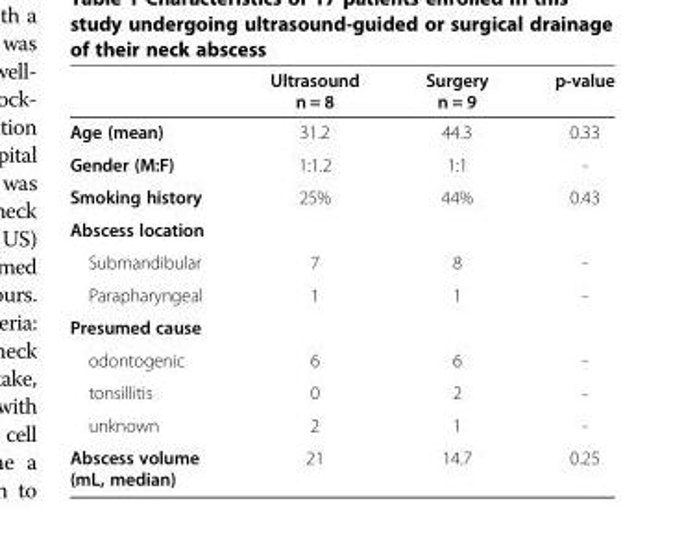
<table><thead><tr><td></td><td>Ultrasound n = 8</td><td>Surgery n = 9</td><td>p-value</td></tr></thead><tbody><tr><td>Age (mean)</td><td>31.2</td><td>44.3</td><td>0.33</td></tr><tr><td>Gender (M:F)</td><td>1:1.2</td><td>1:1</td><td>-</td></tr><tr><td>Smoking history</td><td>25%</td><td>44%</td><td>0.43</td></tr><tr><td colspan="4">Abscess location</td></tr><tr><td>Submandibular</td><td>7</td><td>8</td><td>-</td></tr><tr><td>Parapharyngeal</td><td>1</td><td>1</td><td>-</td></tr><tr><td colspan="4">Presumed cause</td></tr><tr><td>odontogenic</td><td>6</td><td>6</td><td>-</td></tr><tr><td>tonsillitis</td><td>0</td><td>2</td><td>-</td></tr><tr><td>unknown</td><td>2</td><td>1</td><td>-</td></tr><tr><td>Abscess volume (mL, median)</td><td>21</td><td>14.7</td><td>0.25</td></tr></tbody></table>